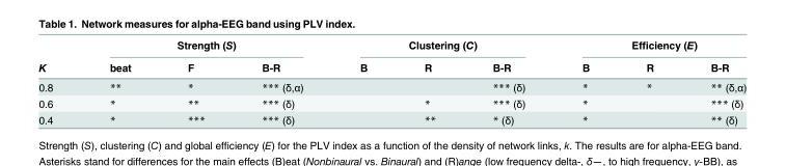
<table><thead><tr><td rowspan="2">K</td><td colspan="3">Strength (S)</td><td colspan="3">Clustering (C)</td><td colspan="3">Efficiency (E)</td></tr><tr><td>beat</td><td>F</td><td>B-R</td><td>B</td><td>R</td><td>B-R</td><td>B</td><td>R</td><td>B-R</td></tr></thead><tbody><tr><td>0.8</td><td>**</td><td>*</td><td>*** (δ,α)</td><td></td><td></td><td>*** (δ)</td><td>*</td><td>*</td><td>** (δ,α)</td></tr><tr><td>0.6</td><td>*</td><td>**</td><td>*** (δ)</td><td></td><td>*</td><td>*** (δ)</td><td>*</td><td></td><td>*** (δ)</td></tr><tr><td>0.4</td><td>*</td><td>***</td><td>*** (δ)</td><td></td><td>**</td><td>* (δ)</td><td>*</td><td></td><td>** (δ)</td></tr></tbody></table>